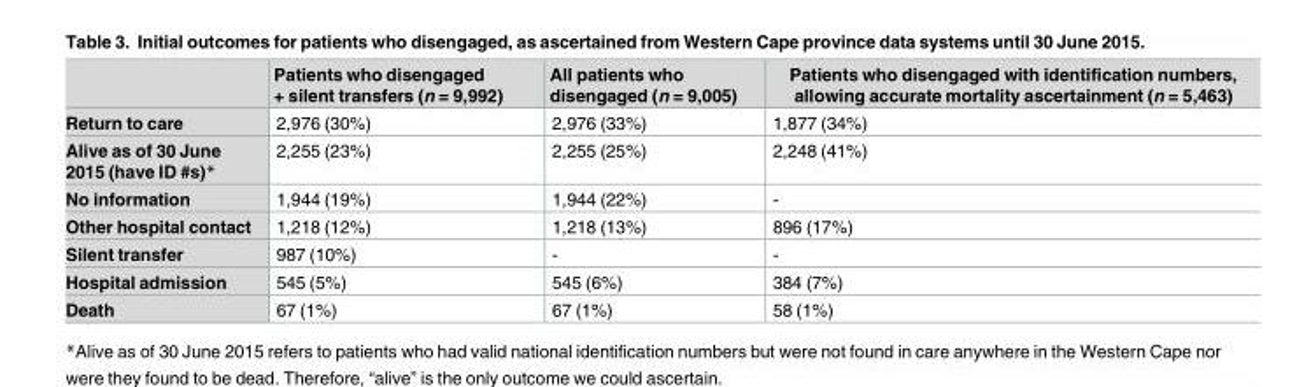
<table><thead><tr><td></td><td>Patients who disengaged + silent transfers (n = 9,992)</td><td>All patients who disengaged (n = 9,005)</td><td>Patients who disengaged with identification numbers, allowing accurate mortality ascertainment (n = 5,463)</td></tr></thead><tbody><tr><td>Return to care</td><td>2,976 (30%)</td><td>2,976 (33%)</td><td>1,877 (34%)</td></tr><tr><td>Alive as of 30 June 2015 (have ID #s)*</td><td>2,255 (23%)</td><td>2,255 (25%)</td><td>2,248 (41%)</td></tr><tr><td>No information</td><td>1,944 (19%)</td><td>1,944 (22%)</td><td>-</td></tr><tr><td>Other hospital contact</td><td>1,218 (12%)</td><td>1,218 (13%)</td><td>896 (17%)</td></tr><tr><td>Silent transfer</td><td>987 (10%)</td><td>-</td><td>-</td></tr><tr><td>Hospital admission</td><td>545 (5%)</td><td>545 (6%)</td><td>384 (7%)</td></tr><tr><td>Death</td><td>67 (1%)</td><td>67 (1%)</td><td>58 (1%)</td></tr></tbody></table>